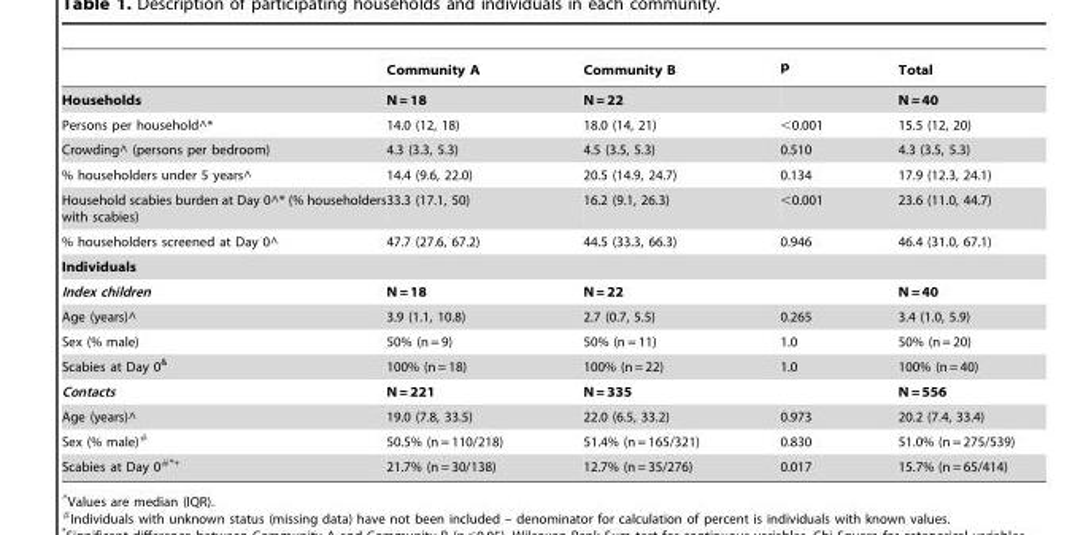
<table><thead><tr><td></td><td>Community A</td><td>Community B</td><td>p</td><td>Total</td></tr></thead><tbody><tr><td>Households</td><td>N = 18</td><td>N = 22</td><td></td><td>N = 40</td></tr><tr><td>Persons per household∧*</td><td>14.0 (12, 18)</td><td>18.0 (14, 21)</td><td>&lt;0.001</td><td>15.5 (12, 20)</td></tr><tr><td>Crowding∧ (persons per bedroom)</td><td>4.3 (3.3, 5.3)</td><td>4.5 (3.5, 5.3)</td><td>0.510</td><td>4.3 (3.5, 5.3)</td></tr><tr><td>% householders under 5 years∧</td><td>14.4 (9.6, 22.0)</td><td>20.5 (14.9, 24.7)</td><td>0.134</td><td>17.9 (12.3, 24.1)</td></tr><tr><td>Household scabies burden at Day 0∧* (% householders with scabies)</td><td>33.3 (17.1, 50)</td><td>16.2 (9.1, 26.3)</td><td>&lt;0.001</td><td>23.6 (11.0, 44.7)</td></tr><tr><td>% householders screened at Day 0∧</td><td>47.7 (27.6, 67.2)</td><td>44.5 (33.3, 66.3)</td><td>0.946</td><td>46.4 (31.0, 67.1)</td></tr><tr><td colspan="5">Individuals</td></tr><tr><td>Index children</td><td>N = 18</td><td>N = 22</td><td></td><td>N = 40</td></tr><tr><td>Age (years)∧</td><td>3.9 (1.1, 10.8)</td><td>2.7 (0.7, 5.5)</td><td>0.265</td><td>3.4 (1.0, 5.9)</td></tr><tr><td>Sex (% male)</td><td>50% (n = 9)</td><td>50% (n = 11)</td><td>1.0</td><td>50% (n = 20)</td></tr><tr><td>Scabies at Day 0&amp;</td><td>100% (n = 18)</td><td>100% (n = 22)</td><td>1.0</td><td>100% (n = 40)</td></tr><tr><td>Contacts</td><td>N = 221</td><td>N = 335</td><td></td><td>N = 556</td></tr><tr><td>Age (years)∧</td><td>19.0 (7.8, 33.5)</td><td>22.0 (6.5, 33.2)</td><td>0.973</td><td>20.2 (7.4, 33.4)</td></tr><tr><td>Sex (% male)#</td><td>50.5% (n = 110/218)</td><td>51.4% (n = 165/321)</td><td>0.830</td><td>51.0% (n = 275/539)</td></tr><tr><td>Scabies at Day 0#*+</td><td>21.7% (n = 30/138)</td><td>12.7% (n = 35/276)</td><td>0.017</td><td>15.7% (n = 65/414)</td></tr></tbody></table>